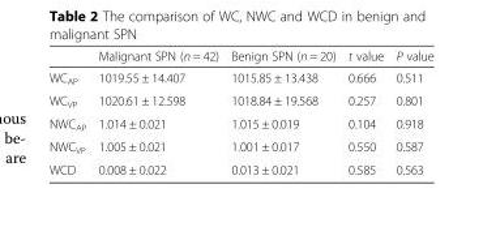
<table><thead><tr><td></td><td>Malignant SPN (n = 42)</td><td>Benign SPN (n = 20)</td><td>t value</td><td>P value</td></tr></thead><tbody><tr><td>WC<sub>AP</sub></td><td>1019.55 ± 14.407</td><td>1015.85 ± 13.438</td><td>0.666</td><td>0.511</td></tr><tr><td>WC<sub>VP</sub></td><td>1020.61 ± 12.598</td><td>1018.84 ± 19.568</td><td>0.257</td><td>0.801</td></tr><tr><td>NWC<sub>AP</sub></td><td>1.014 ± 0.021</td><td>1.015 ± 0.019</td><td>0.104</td><td>0.918</td></tr><tr><td>NWC<sub>VP</sub></td><td>1.005 ± 0.021</td><td>1.001 ± 0.017</td><td>0.550</td><td>0.587</td></tr><tr><td>WCD</td><td>0.008 ± 0.022</td><td>0.013 ± 0.021</td><td>0.585</td><td>0.563</td></tr></tbody></table>